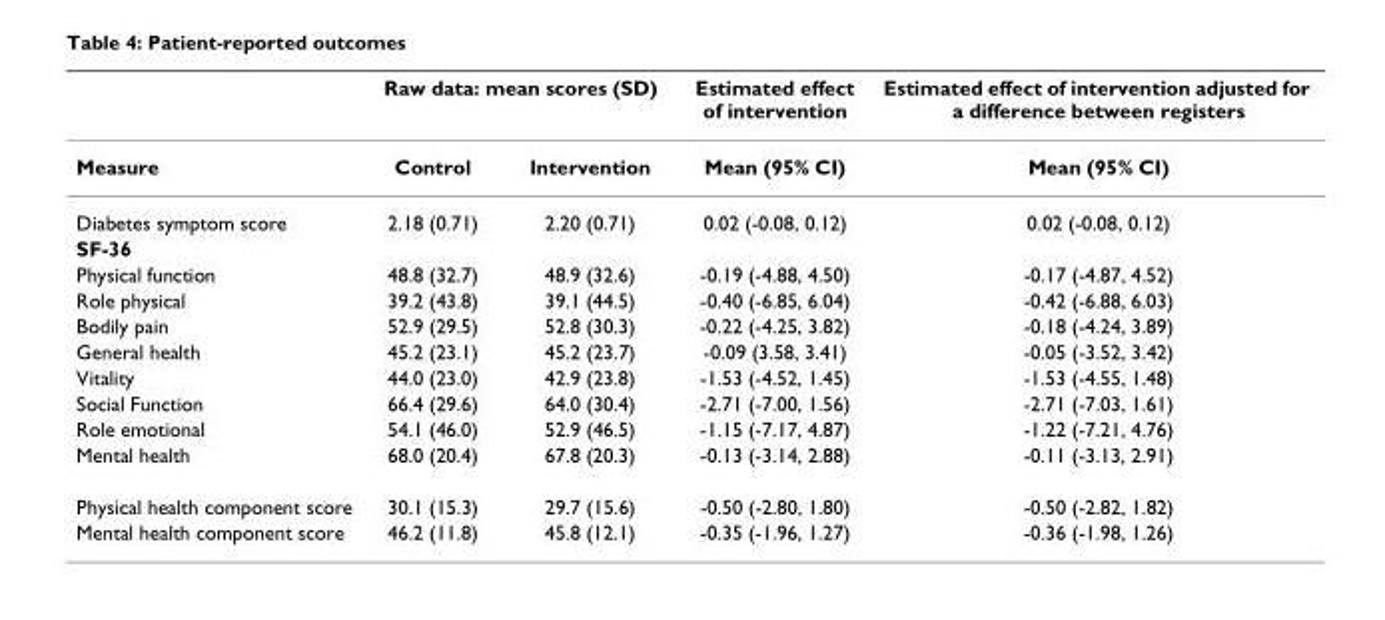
<table><thead><tr><td rowspan="2">Measure</td><td colspan="2">Raw data: mean scores (SD)</td><td rowspan="2">Estimated effect of intervention Mean (95% CI)</td><td rowspan="2">Estimated effect of intervention adjusted for a difference between registers Mean (95% CI)</td></tr><tr><td>Control</td><td>Intervention</td></tr></thead><tbody><tr><td>Diabetes symptom score</td><td>2.18 (0.71)</td><td>2.20 (0.71)</td><td>0.02 (-0.08, 0.12)</td><td>0.02 (-0.08, 0.12)</td></tr><tr><td colspan="5">SF-36</td></tr><tr><td>Physical function</td><td>48.8 (32.7)</td><td>48.9 (32.6)</td><td>-0.19 (-4.88, 4.50)</td><td>-0.17 (-4.87, 4.52)</td></tr><tr><td>Role physical</td><td>39.2 (43.8)</td><td>39.1 (44.5)</td><td>-0.40 (-6.85, 6.04)</td><td>-0.42 (-6.88, 6.03)</td></tr><tr><td>Bodily pain</td><td>52.9 (29.5)</td><td>52.8 (30.3)</td><td>-0.22 (-4.25, 3.82)</td><td>-0.18 (-4.24, 3.89)</td></tr><tr><td>General health</td><td>45.2 (23.1)</td><td>45.2 (23.7)</td><td>-0.09 (3.58, 3.41)</td><td>-0.05 (-3.52, 3.42)</td></tr><tr><td>Vitality</td><td>44.0 (23.0)</td><td>42.9 (23.8)</td><td>-1.53 (-4.52, 1.45)</td><td>-1.53 (-4.55, 1.48)</td></tr><tr><td>Social Function</td><td>66.4 (29.6)</td><td>64.0 (30.4)</td><td>-2.71 (-7.00, 1.56)</td><td>-2.71 (-7.03, 1.61)</td></tr><tr><td>Role emotional</td><td>54.1 (46.0)</td><td>52.9 (46.5)</td><td>-1.15 (-7.17, 4.87)</td><td>-1.22 (-7.21, 4.76)</td></tr><tr><td>Mental health</td><td>68.0 (20.4)</td><td>67.8 (20.3)</td><td>-0.13 (-3.14, 2.88)</td><td>-0.11 (-3.13, 2.91)</td></tr><tr><td>Physical health component score</td><td>30.1 (15.3)</td><td>29.7 (15.6)</td><td>-0.50 (-2.80, 1.80)</td><td>-0.50 (-2.82, 1.82)</td></tr><tr><td>Mental health component score</td><td>46.2 (11.8)</td><td>45.8 (12.1)</td><td>-0.35 (-1.96, 1.27)</td><td>-0.36 (-1.98, 1.26)</td></tr></tbody></table>